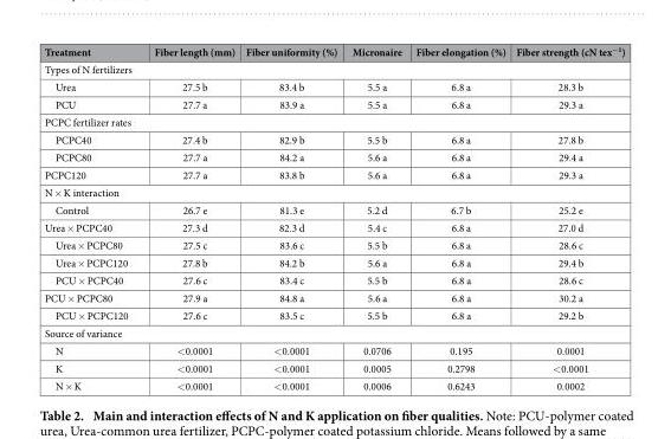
<table><thead><tr><td>Treatment</td><td>Fiber length (mm)</td><td>Fiber uniformity (%)</td><td>Micronaire</td><td>Fiber elongation (%)</td><td>Fiber strength (cN tex<sup>−1</sup>)</td></tr></thead><tbody><tr><td colspan="6">Types of N fertilizers</td></tr><tr><td>Urea</td><td>27.5 b</td><td>83.4 b</td><td>5.5 a</td><td>6.8 a</td><td>28.3 b</td></tr><tr><td>PCU</td><td>27.7 a</td><td>83.9 a</td><td>5.5 a</td><td>6.8 a</td><td>29.3 a</td></tr><tr><td colspan="6">PCPC fertilizer rates</td></tr><tr><td>PCPC40</td><td>27.4 b</td><td>82.9 b</td><td>5.5 b</td><td>6.8 a</td><td>27.8 b</td></tr><tr><td>PCPC80</td><td>27.7 a</td><td>84.2 a</td><td>5.6 a</td><td>6.8 a</td><td>29.4 a</td></tr><tr><td>PCPC120</td><td>27.7 a</td><td>83.8 b</td><td>5.6 a</td><td>6.8 a</td><td>29.3 a</td></tr><tr><td colspan="6">N × K interaction</td></tr><tr><td>Control</td><td>26.7 e</td><td>81.3 e</td><td>5.2 d</td><td>6.7 b</td><td>25.2 e</td></tr><tr><td>Urea × PCPC40</td><td>27.3 d</td><td>82.3 d</td><td>5.4 c</td><td>6.8 a</td><td>27.0 d</td></tr><tr><td>Urea × PCPC80</td><td>27.5 c</td><td>83.6 c</td><td>5.5 b</td><td>6.8 a</td><td>28.6 c</td></tr><tr><td>Urea × PCPC120</td><td>27.8 b</td><td>84.2 b</td><td>5.6 a</td><td>6.8 a</td><td>29.4 b</td></tr><tr><td>PCU × PCPC40</td><td>27.6 c</td><td>83.4 c</td><td>5.5 b</td><td>6.8 a</td><td>28.6 c</td></tr><tr><td>PCU × PCPC80</td><td>27.9 a</td><td>84.8 a</td><td>5.6 a</td><td>6.8 a</td><td>30.2 a</td></tr><tr><td>PCU × PCPC120</td><td>27.6 c</td><td>83.5 c</td><td>5.5 b</td><td>6.8 a</td><td>29.2 b</td></tr><tr><td colspan="6">Source of variance</td></tr><tr><td>N</td><td>&lt; 0.0001</td><td>&lt; 0.0001</td><td>0.0706</td><td>0.195</td><td>0.0001</td></tr><tr><td>K</td><td>&lt; 0.0001</td><td>&lt; 0.0001</td><td>0.0005</td><td>0.2798</td><td>&lt; 0.0001</td></tr><tr><td>N × K</td><td>&lt; 0.0001</td><td>&lt; 0.0001</td><td>0.0006</td><td>0.6243</td><td>0.0002</td></tr></tbody></table>